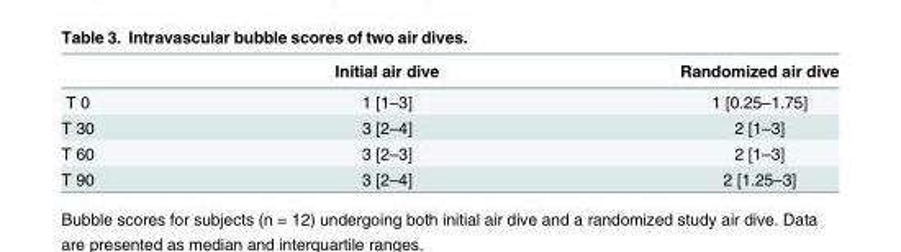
<table><thead><tr><td></td><td>Initial air dive</td><td>Randomized air dive</td></tr></thead><tbody><tr><td>T 0</td><td>1 [1–3]</td><td>1 [0.25–1.75]</td></tr><tr><td>T 30</td><td>3 [2–4]</td><td>2 [1–3]</td></tr><tr><td>T 60</td><td>3 [2–3]</td><td>2 [1–3]</td></tr><tr><td>T 90</td><td>3 [2–4]</td><td>2 [1.25–3]</td></tr></tbody></table>